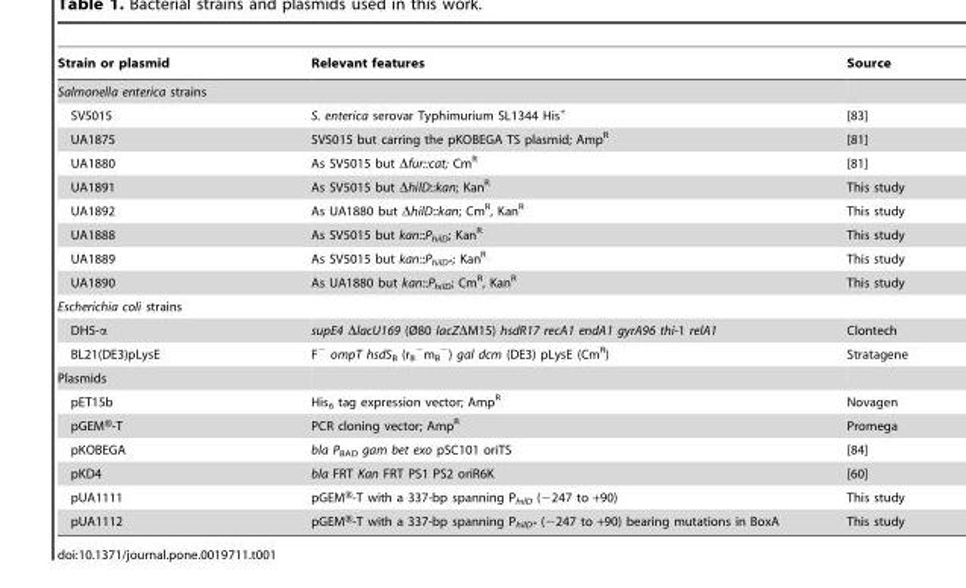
<table><thead><tr><td>Strain or plasmid</td><td>Relevant features</td><td>Source</td></tr></thead><tbody><tr><td colspan="3">Salmonella enterica strains</td></tr><tr><td>SV5015</td><td>S. enterica serovar Typhimurium SL1344 His<sup>+</sup></td><td>[83]</td></tr><tr><td>UA1875</td><td>SV5015 but carring the pKOBEGA TS plasmid; Amp<sup>R</sup></td><td>[81]</td></tr><tr><td>UA1880</td><td>As SV5015 but Δfur::cat; Cm<sup>R</sup></td><td>[81]</td></tr><tr><td>UA1891</td><td>As SV5015 but ΔhilD::kan; Kan<sup>R</sup></td><td>This study</td></tr><tr><td>UA1892</td><td>As UA1880 but ΔhilD::kan; Cm<sup>R</sup>, Kan<sup>R</sup></td><td>This study</td></tr><tr><td>UA1888</td><td>As SV5015 but kan::P<sub>hilD</sub>; Kan<sup>R</sup></td><td>This study</td></tr><tr><td>UA1889</td><td>As SV5015 but kan::P<sub>hilD*</sub>; Kan<sup>R</sup></td><td>This study</td></tr><tr><td>UA1890</td><td>As UA1880 but kan::P<sub>hilD</sub>; Cm<sup>R</sup>, Kan<sup>R</sup></td><td>This study</td></tr><tr><td colspan="3">Escherichia coli strains</td></tr><tr><td>DH5-α</td><td>supE4 ΔlacU169 (Ø80 lacZΔM15) hsdR17 recA1 endA1 gyrA96 thi-1 relA1</td><td>Clontech</td></tr><tr><td>BL21(DE3)pLysE</td><td>F<sup>−</sup> ompT hsdS<sub>B</sub> (r<sub>B</sub> <sup>−</sup>m<sub>B</sub> <sup>−</sup>) gal dcm (DE3) pLysE (Cm<sup>R</sup>)</td><td>Stratagene</td></tr><tr><td colspan="3">Plasmids</td></tr><tr><td>pET15b</td><td>His<sub>6</sub> tag expression vector; Amp<sup>R</sup></td><td>Novagen</td></tr><tr><td>pGEM®-T</td><td>PCR cloning vector; Amp<sup>R</sup></td><td>Promega</td></tr><tr><td>pKOBEGA</td><td>bla P<sub>BAD</sub> gam bet exo pSC101 oriTS</td><td>[84]</td></tr><tr><td>pKD4</td><td>bla FRT Kan FRT PS1 PS2 oriR6K</td><td>[60]</td></tr><tr><td>pUA1111</td><td>pGEM®-T with a 337-bp spanning P<sub>hilD</sub> (−247 to +90)</td><td>This study</td></tr><tr><td>pUA1112</td><td>pGEM®-T with a 337-bp spanning P<sub>hilD*</sub> (−247 to +90) bearing mutations in BoxA</td><td>This study</td></tr></tbody></table>